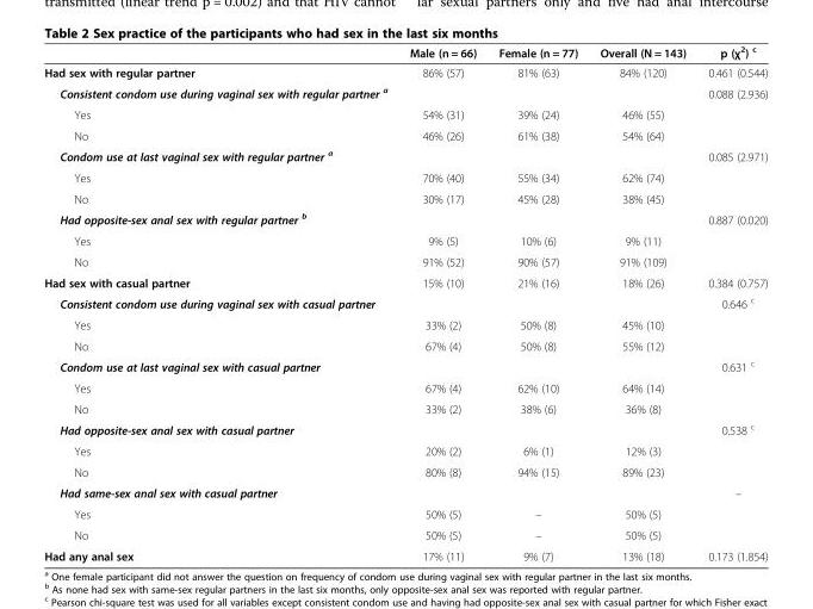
<table><thead><tr><td></td><td>Male (n = 66)</td><td>Female (n = 77)</td><td>Overall (N = 143)</td><td>p (χ<sup>2</sup>) <sup>c</sup></td></tr></thead><tbody><tr><td>Had sex with regular partner</td><td>86% (57)</td><td>81% (63)</td><td>84% (120)</td><td>0.461 (0.544)</td></tr><tr><td>Consistent condom use during vaginal sex with regular partner <sup>a</sup></td><td></td><td></td><td></td><td>0.088 (2.936)</td></tr><tr><td>Yes</td><td>54% (31)</td><td>39% (24)</td><td>46% (55)</td><td></td></tr><tr><td>No</td><td>46% (26)</td><td>61% (38)</td><td>54% (64)</td><td></td></tr><tr><td>Condom use at last vaginal sex with regular partner <sup>a</sup></td><td></td><td></td><td></td><td>0.085 (2.971)</td></tr><tr><td>Yes</td><td>70% (40)</td><td>55% (34)</td><td>62% (74)</td><td></td></tr><tr><td>No</td><td>30% (17)</td><td>45% (28)</td><td>38% (45)</td><td></td></tr><tr><td>Had opposite-sex anal sex with regular partner <sup>b</sup></td><td></td><td></td><td></td><td>0.887 (0.020)</td></tr><tr><td>Yes</td><td>9% (5)</td><td>10% (6)</td><td>9% (11)</td><td></td></tr><tr><td>No</td><td>91% (52)</td><td>90% (57)</td><td>91% (109)</td><td></td></tr><tr><td>Had sex with casual partner</td><td>15% (10)</td><td>21% (16)</td><td>18% (26)</td><td>0.384 (0.757)</td></tr><tr><td>Consistent condom use during vaginal sex with casual partner</td><td></td><td></td><td></td><td>0.646 <sup>c</sup></td></tr><tr><td>Yes</td><td>33% (2)</td><td>50% (8)</td><td>45% (10)</td><td></td></tr><tr><td>No</td><td>67% (4)</td><td>50% (8)</td><td>55% (12)</td><td></td></tr><tr><td>Condom use at last vaginal sex with casual partner</td><td></td><td></td><td></td><td>0.631 <sup>c</sup></td></tr><tr><td>Yes</td><td>67% (4)</td><td>62% (10)</td><td>64% (14)</td><td></td></tr><tr><td>No</td><td>33% (2)</td><td>38% (6)</td><td>36% (8)</td><td></td></tr><tr><td>Had opposite-sex anal sex with casual partner</td><td></td><td></td><td></td><td>0.538 <sup>c</sup></td></tr><tr><td>Yes</td><td>20% (2)</td><td>6% (1)</td><td>12% (3)</td><td></td></tr><tr><td>No</td><td>80% (8)</td><td>94% (15)</td><td>89% (23)</td><td></td></tr><tr><td>Had same-sex anal sex with casual partner</td><td></td><td></td><td></td><td>–</td></tr><tr><td>Yes</td><td>50% (5)</td><td>–</td><td>50% (5)</td><td></td></tr><tr><td>No</td><td>50% (5)</td><td>–</td><td>50% (5)</td><td></td></tr><tr><td>Had any anal sex</td><td>17% (11)</td><td>9% (7)</td><td>13% (18)</td><td>0.173 (1.854)</td></tr></tbody></table>